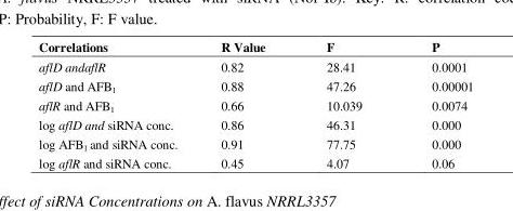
<table><thead><tr><td>Correlations</td><td>R Value</td><td>F</td><td>P</td></tr></thead><tbody><tr><td>aflD andaflR</td><td>0.82</td><td>28.41</td><td>0.0001</td></tr><tr><td>aflD and AFB<sub>1</sub></td><td>0.88</td><td>47.26</td><td>0.00001</td></tr><tr><td>aflR and AFB<sub>1</sub></td><td>0.66</td><td>10.039</td><td>0.0074</td></tr><tr><td>log aflD and siRNA conc.</td><td>0.86</td><td>46.31</td><td>0.000</td></tr><tr><td>log AFB<sub>1</sub> and siRNA conc.</td><td>0.91</td><td>77.75</td><td>0.000</td></tr><tr><td>log aflR and siRNA conc.</td><td>0.45</td><td>4.07</td><td>0.06</td></tr></tbody></table>